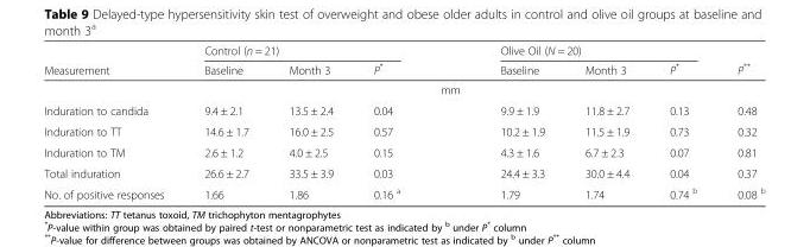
<table><thead><tr><td rowspan="2">Measurement</td><td colspan="3">Control (n = 21)</td><td rowspan="2"></td><td colspan="3">Olive Oil (N = 20)</td><td rowspan="2">P**</td></tr><tr><td>Baseline</td><td>Month 3</td><td>P*</td><td>Baseline</td><td>Month 3</td><td>P*</td></tr></thead><tbody><tr><td></td><td></td><td></td><td></td><td>mm</td><td></td><td></td><td></td><td></td></tr><tr><td>Induration to candida</td><td>9.4 ± 2.1</td><td>13.5 ± 2.4</td><td>0.04</td><td></td><td>9.9 ± 1.9</td><td>11.8 ± 2.7</td><td>0.13</td><td>0.48</td></tr><tr><td>Induration to TT</td><td>14.6 ± 1.7</td><td>16.0 ± 2.5</td><td>0.57</td><td></td><td>10.2 ± 1.9</td><td>11.5 ± 1.9</td><td>0.73</td><td>0.32</td></tr><tr><td>Induration to TM</td><td>2.6 ± 1.2</td><td>4.0 ± 2.5</td><td>0.15</td><td></td><td>4.3 ± 1.6</td><td>6.7 ± 2.3</td><td>0.07</td><td>0.81</td></tr><tr><td>Total induration</td><td>26.6 ± 2.7</td><td>33.5 ± 3.9</td><td>0.03</td><td></td><td>24.4 ± 3.3</td><td>30.0 ± 4.4</td><td>0.04</td><td>0.37</td></tr><tr><td>No. of positive responses</td><td>1.66</td><td>1.86</td><td>0.16 <sup>a</sup></td><td></td><td>1.79</td><td>1.74</td><td>0.74 <sup>b</sup></td><td>0.08 <sup>b</sup></td></tr></tbody></table>